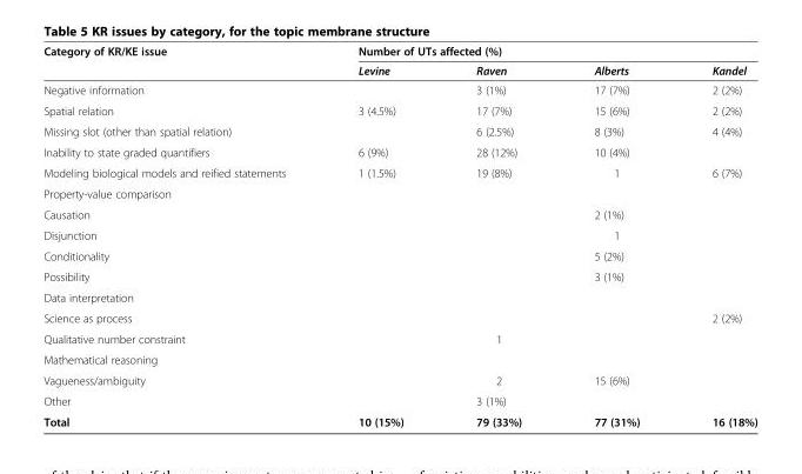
<table><thead><tr><td rowspan="2">Category of KR/KE issue</td><td colspan="4">Number of UTs affected (%)</td></tr><tr><td>Levine</td><td>Raven</td><td>Alberts</td><td>Kandel</td></tr></thead><tbody><tr><td>Negative information</td><td></td><td>3 (1%)</td><td>17 (7%)</td><td>2 (2%)</td></tr><tr><td>Spatial relation</td><td>3 (4.5%)</td><td>17 (7%)</td><td>15 (6%)</td><td>2 (2%)</td></tr><tr><td>Missing slot (other than spatial relation)</td><td></td><td>6 (2.5%)</td><td>8 (3%)</td><td>4 (4%)</td></tr><tr><td>Inability to state graded quantifiers</td><td>6 (9%)</td><td>28 (12%)</td><td>10 (4%)</td><td></td></tr><tr><td>Modeling biological models and reified statements</td><td>1 (1.5%)</td><td>19 (8%)</td><td>1</td><td>6 (7%)</td></tr><tr><td colspan="5">Property-value comparison</td></tr><tr><td>Causation</td><td></td><td></td><td>2 (1%)</td><td></td></tr><tr><td>Disjunction</td><td></td><td></td><td>1</td><td></td></tr><tr><td>Conditionality</td><td></td><td></td><td>5 (2%)</td><td></td></tr><tr><td>Possibility</td><td></td><td></td><td>3 (1%)</td><td></td></tr><tr><td colspan="5">Data interpretation</td></tr><tr><td>Science as process</td><td></td><td></td><td></td><td>2 (2%)</td></tr><tr><td>Qualitative number constraint</td><td></td><td>1</td><td></td><td></td></tr><tr><td colspan="5">Mathematical reasoning</td></tr><tr><td>Vagueness/ambiguity</td><td></td><td>2</td><td>15 (6%)</td><td></td></tr><tr><td>Other</td><td></td><td>3 (1%)</td><td></td><td></td></tr><tr><td>Total</td><td>10 (15%)</td><td>79 (33%)</td><td>77 (31%)</td><td>16 (18%)</td></tr></tbody></table>